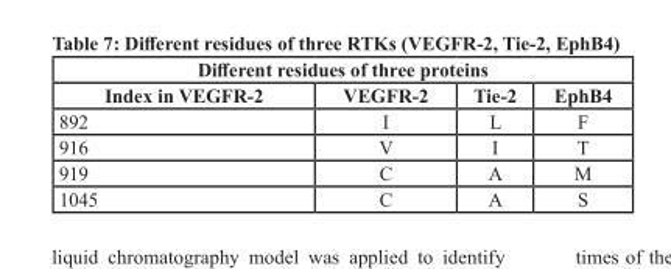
<table><thead><tr><td colspan="4">Different residues of three proteins</td></tr><tr><td>Index in VEGFR-2</td><td>VEGFR-2</td><td>Tie-2</td><td>EphB4</td></tr></thead><tbody><tr><td>892</td><td>I</td><td>L</td><td>F</td></tr><tr><td>916</td><td>V</td><td>I</td><td>T</td></tr><tr><td>919</td><td>C</td><td>A</td><td>M</td></tr><tr><td>1045</td><td>C</td><td>A</td><td>S</td></tr></tbody></table>